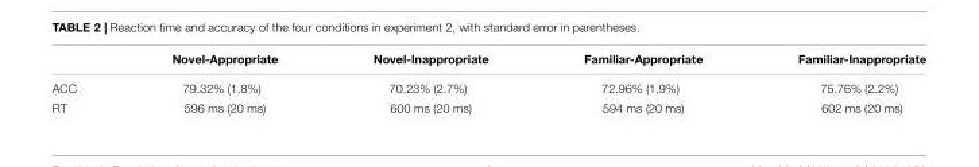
<table><thead><tr><td></td><td>Novel-Appropriate</td><td>Novel-Inappropriate</td><td>Familiar-Appropriate</td><td>Familiar-Inappropriate</td></tr></thead><tbody><tr><td>ACC</td><td>79.32% (1.8%)</td><td>70.23% (2.7%)</td><td>72.96% (1.9%)</td><td>75.76% (2.2%)</td></tr><tr><td>RT</td><td>596 ms (20 ms)</td><td>600 ms (20 ms)</td><td>594 ms (20 ms)</td><td>602 ms (20 ms)</td></tr></tbody></table>